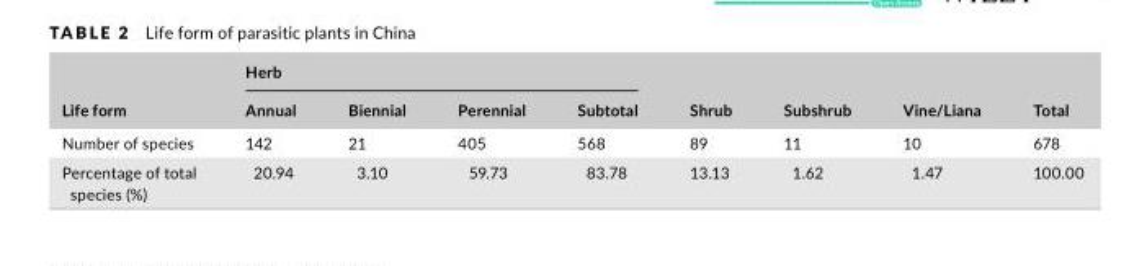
<table><thead><tr><td rowspan="2">Life form</td><td colspan="4">Herb</td><td rowspan="2">Shrub</td><td rowspan="2">Subshrub</td><td rowspan="2">Vine/Liana</td><td rowspan="2">Total</td></tr><tr><td>Annual</td><td>Biennial</td><td>Perennial</td><td>Subtotal</td></tr></thead><tbody><tr><td>Number of species</td><td>142</td><td>21</td><td>405</td><td>568</td><td>89</td><td>11</td><td>10</td><td>678</td></tr><tr><td>Percentage of total species (%)</td><td>20.94</td><td>3.10</td><td>59.73</td><td>83.78</td><td>13.13</td><td>1.62</td><td>1.47</td><td>100.00</td></tr></tbody></table>